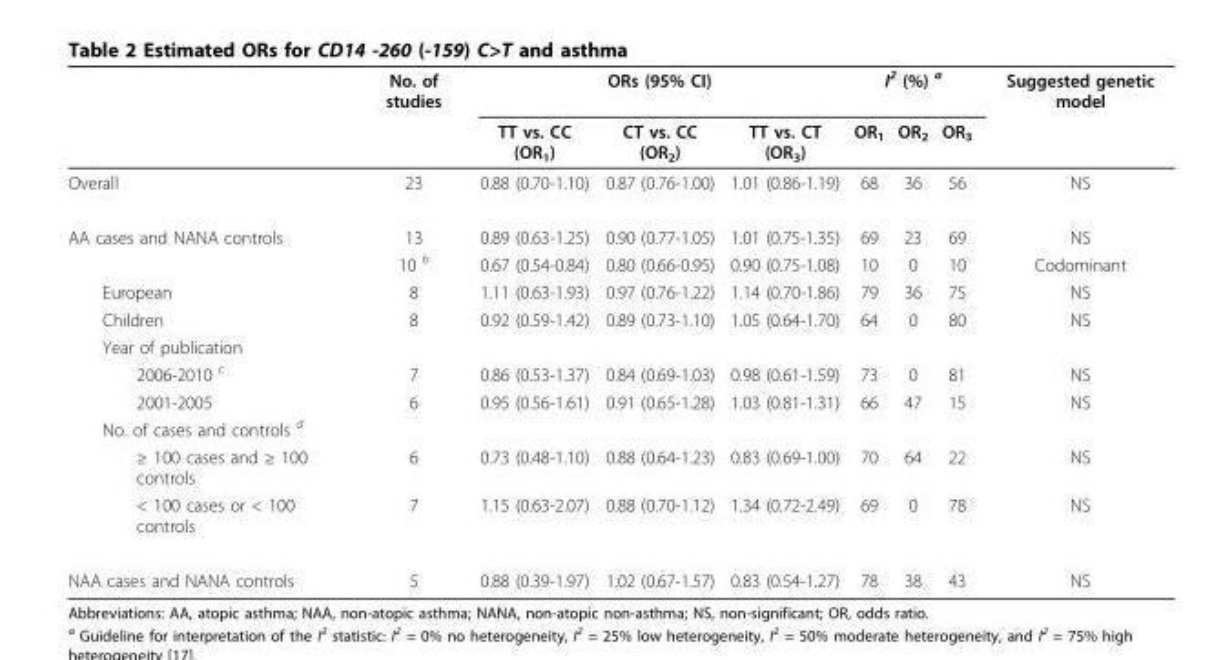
<table><thead><tr><td rowspan="2"></td><td rowspan="2">No. of studies</td><td colspan="3">ORs (95% CI)</td><td colspan="3">I<sup>2</sup> (%) <sup>a</sup></td><td rowspan="2">Suggested genetic model</td></tr><tr><td>TT vs. CC (OR<sub>1</sub>)</td><td>CT vs. CC (OR<sub>2</sub>)</td><td>TT vs. CT (OR<sub>3</sub>)</td><td>OR<sub>1</sub></td><td>OR<sub>2</sub></td><td>OR<sub>3</sub></td></tr></thead><tbody><tr><td>Overall</td><td>23</td><td>0.88 (0.70-1.10)</td><td>0.87 (0.76-1.00)</td><td>1.01 (0.86-1.19)</td><td>68</td><td>36</td><td>56</td><td>NS</td></tr><tr><td rowspan="2">AA cases and NANA controls</td><td>13</td><td>0.89 (0.63-1.25)</td><td>0.90 (0.77-1.05)</td><td>1.01 (0.75-1.35)</td><td>69</td><td>23</td><td>69</td><td>NS</td></tr><tr><td>10 <sup>b</sup></td><td>0.67 (0.54-0.84)</td><td>0.80 (0.66-0.95)</td><td>0.90 (0.75-1.08)</td><td>10</td><td>0</td><td>10</td><td>Codominant</td></tr><tr><td>European</td><td>8</td><td>1.11 (0.63-1.93)</td><td>0.97 (0.76-1.22)</td><td>1.14 (0.70-1.86)</td><td>79</td><td>36</td><td>75</td><td>NS</td></tr><tr><td>Children</td><td>8</td><td>0.92 (0.59-1.42)</td><td>0.89 (0.73-1.10)</td><td>1.05 (0.64-1.70)</td><td>64</td><td>0</td><td>80</td><td>NS</td></tr><tr><td colspan="9">Year of publication</td></tr><tr><td>2006-2010 <sup>c</sup></td><td>7</td><td>0.86 (0.53-1.37)</td><td>0.84 (0.69-1.03)</td><td>0.98 (0.61-1.59)</td><td>73</td><td>0</td><td>81</td><td>NS</td></tr><tr><td>2001-2005</td><td>6</td><td>0.95 (0.56-1.61)</td><td>0.91 (0.65-1.28)</td><td>1.03 (0.81-1.31)</td><td>66</td><td>47</td><td>15</td><td>NS</td></tr><tr><td colspan="9">No. of cases and controls <sup>d</sup></td></tr><tr><td>≥ 100 cases and ≥ 100 controls</td><td>6</td><td>0.73 (0.48-1.10)</td><td>0.88 (0.64-1.23)</td><td>0.83 (0.69-1.00)</td><td>70</td><td>64</td><td>22</td><td>NS</td></tr><tr><td>&lt; 100 cases or &lt; 100 controls</td><td>7</td><td>1.15 (0.63-2.07)</td><td>0.88 (0.70-1.12)</td><td>1.34 (0.72-2.49)</td><td>69</td><td>0</td><td>78</td><td>NS</td></tr><tr><td>NAA cases and NANA controls</td><td>5</td><td>0.88 (0.39-1.97)</td><td>1.02 (0.67-1.57)</td><td>0.83 (0.54-1.27)</td><td>78</td><td>38</td><td>43</td><td>NS</td></tr></tbody></table>